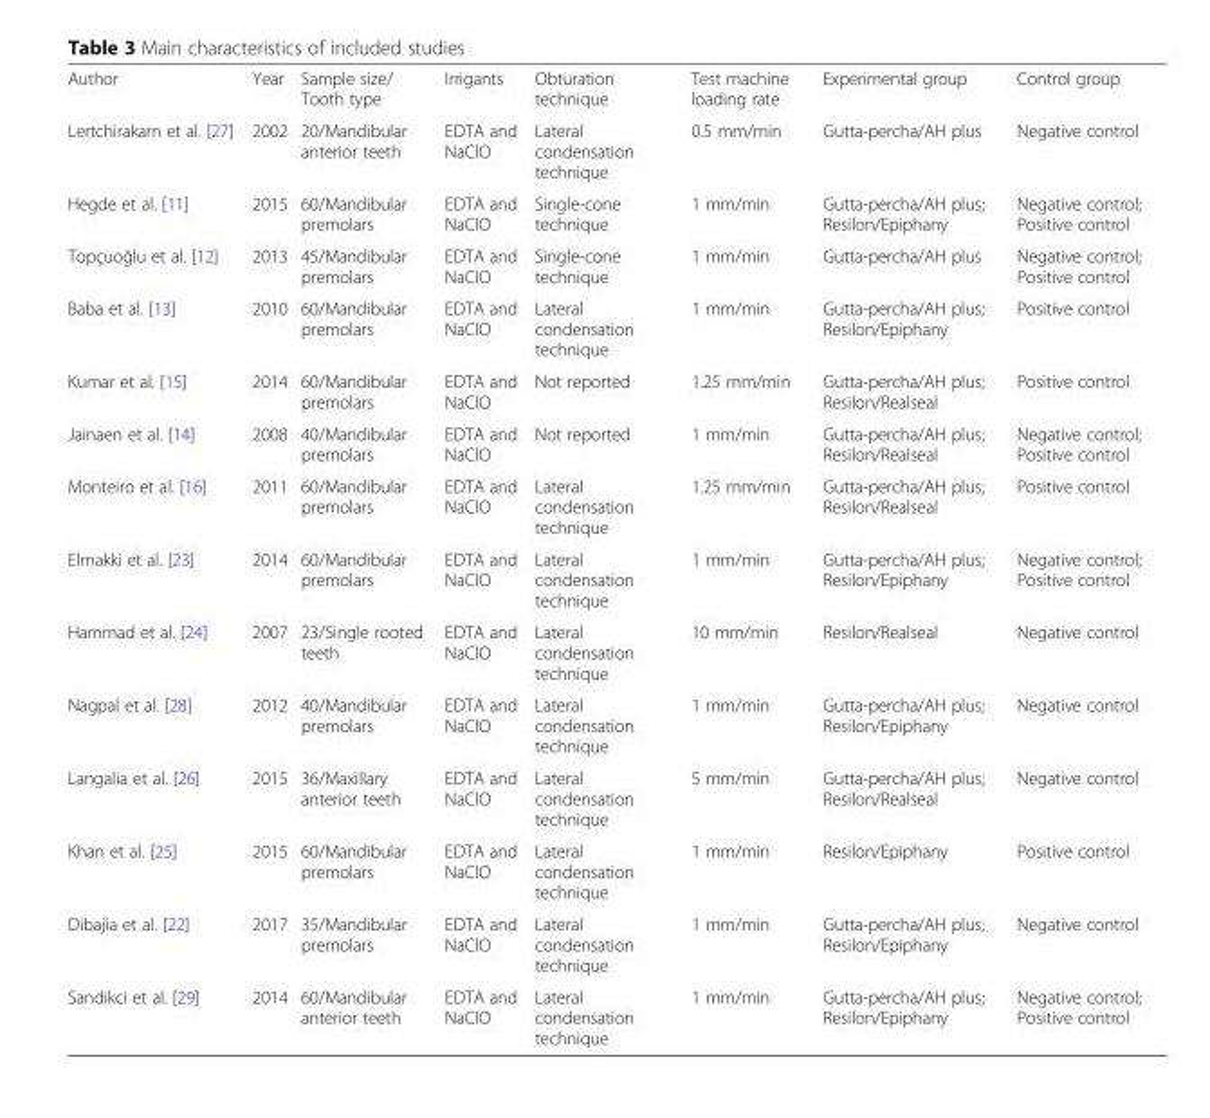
<table><tbody><tr><td>Author</td><td>Year</td><td>Sample size/ Tooth type</td><td>Irrigants</td><td>Obturation technique</td><td>Test machine loading rate</td><td>Experimental group</td><td>Control group</td></tr><tr><td>Lertchirakarn et al. [27]</td><td>2002</td><td>20/Mandibular anterior teeth</td><td>EDTA and NaClO</td><td>Lateral condensation technique</td><td>0.5 mm/min</td><td>Gutta-percha/AH plus</td><td>Negative control</td></tr><tr><td>Hegde et al. [11]</td><td>2015</td><td>60/Mandibular premolars</td><td>EDTA and NaClO</td><td>Single-cone technique</td><td>1 mm/min</td><td>Gutta-percha/AH plus; Resilon/Epiphany</td><td>Negative control; Positive control</td></tr><tr><td>Topçuoğlu et al. [12]</td><td>2013</td><td>45/Mandibular premolars</td><td>EDTA and NaClO</td><td>Single-cone technique</td><td>1 mm/min</td><td>Gutta-percha/AH plus</td><td>Negative control; Positive control</td></tr><tr><td>Baba et al. [13]</td><td>2010</td><td>60/Mandibular premolars</td><td>EDTA and NaClO</td><td>Lateral condensation technique</td><td>1 mm/min</td><td>Gutta-percha/AH plus; Resilon/Epiphany</td><td>Positive control</td></tr><tr><td>Kumar et al. [15]</td><td>2014</td><td>60/Mandibular premolars</td><td>EDTA and NaClO</td><td>Not reported</td><td>1.25 mm/min</td><td>Gutta-percha/AH plus; Resilon/Realseal</td><td>Positive control</td></tr><tr><td>Jainaen et al. [14]</td><td>2008</td><td>40/Mandibular premolars</td><td>EDTA and NaClO</td><td>Not reported</td><td>1 mm/min</td><td>Gutta-percha/AH plus; Resilon/Realseal</td><td>Negative control; Positive control</td></tr><tr><td>Monteiro et al. [16]</td><td>2011</td><td>60/Mandibular premolars</td><td>EDTA and NaClO</td><td>Lateral condensation technique</td><td>1.25 mm/min</td><td>Gutta-percha/AH plus; Resilon/Realseal</td><td>Positive control</td></tr><tr><td>Elmakki et al. [23]</td><td>2014</td><td>60/Mandibular premolars</td><td>EDTA and NaClO</td><td>Lateral condensation technique</td><td>1 mm/min</td><td>Gutta-percha/AH plus; Resilon/Epiphany</td><td>Negative control; Positive control</td></tr><tr><td>Hammad et al. [24]</td><td>2007</td><td>23/Single rooted teeth</td><td>EDTA and NaClO</td><td>Lateral condensation technique</td><td>10 mm/min</td><td>Resilon/Realseal</td><td>Negative control</td></tr><tr><td>Nagpal et al. [28]</td><td>2012</td><td>40/Mandibular premolars</td><td>EDTA and NaClO</td><td>Lateral condensation technique</td><td>1 mm/min</td><td>Gutta-percha/AH plus; Resilon/Epiphany</td><td>Negative control</td></tr><tr><td>Langalia et al. [26]</td><td>2015</td><td>36/Maxillary anterior teeth</td><td>EDTA and NaClO</td><td>Lateral condensation technique</td><td>5 mm/min</td><td>Gutta-percha/AH plus; Resilon/Realseal</td><td>Negative control</td></tr><tr><td>Khan et al. [25]</td><td>2015</td><td>60/Mandibular premolars</td><td>EDTA and NaClO</td><td>Lateral condensation technique</td><td>1 mm/min</td><td>Resilon/Epiphany</td><td>Positive control</td></tr><tr><td>Dibajia et al. [22]</td><td>2017</td><td>35/Mandibular premolars</td><td>EDTA and NaClO</td><td>Lateral condensation technique</td><td>1 mm/min</td><td>Gutta-percha/AH plus; Resilon/Epiphany</td><td>Negative control</td></tr><tr><td>Sandikci et al. [29]</td><td>2014</td><td>60/Mandibular anterior teeth</td><td>EDTA and NaClO</td><td>Lateral condensation technique</td><td>1 mm/min</td><td>Gutta-percha/AH plus; Resilon/Epiphany</td><td>Negative control; Positive control</td></tr></tbody></table>